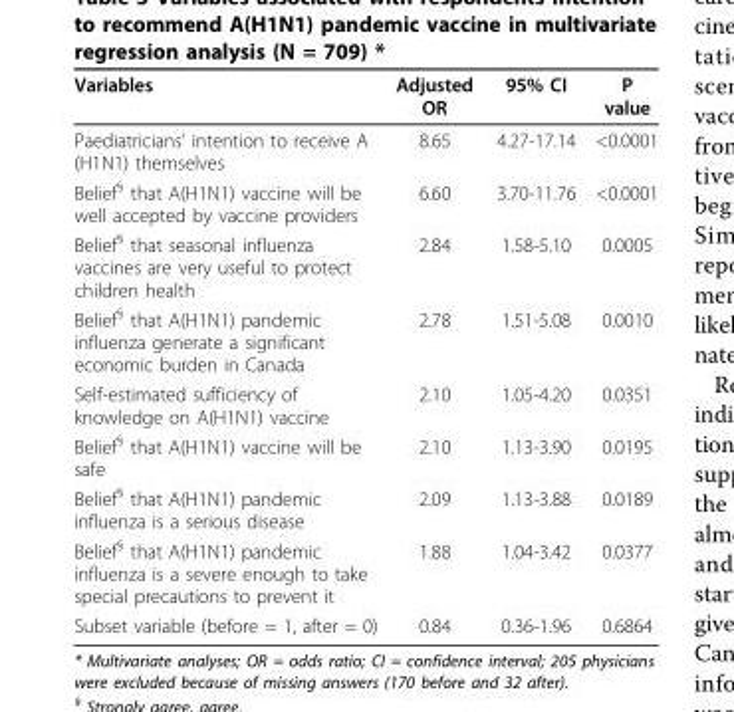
<table><thead><tr><td>Variables</td><td>Adjusted OR</td><td>95% CI</td><td>P value</td></tr></thead><tbody><tr><td>Paediatricians’ intention to receive A (H1N1) themselves</td><td>8.65</td><td>4.27-17.14</td><td>&lt;0.0001</td></tr><tr><td>Belief<sup>§</sup> that A(H1N1) vaccine will be well accepted by vaccine providers</td><td>6.60</td><td>3.70-11.76</td><td>&lt;0.0001</td></tr><tr><td>Belief<sup>§</sup> that seasonal influenza vaccines are very useful to protect children health</td><td>2.84</td><td>1.58-5.10</td><td>0.0005</td></tr><tr><td>Belief<sup>§</sup> that A(H1N1) pandemic influenza generate a significant economic burden in Canada</td><td>2.78</td><td>1.51-5.08</td><td>0.0010</td></tr><tr><td>Self-estimated sufficiency of knowledge on A(H1N1) vaccine</td><td>2.10</td><td>1.05-4.20</td><td>0.0351</td></tr><tr><td>Belief<sup>§</sup> that A(H1N1) vaccine will be safe</td><td>2.10</td><td>1.13-3.90</td><td>0.0195</td></tr><tr><td>Belief<sup>§</sup> that A(H1N1) pandemic influenza is a serious disease</td><td>2.09</td><td>1.13-3.88</td><td>0.0189</td></tr><tr><td>Belief<sup>§</sup> that A(H1N1) pandemic influenza is a severe enough to take special precautions to prevent it</td><td>1.88</td><td>1.04-3.42</td><td>0.0377</td></tr><tr><td>Subset variable (before = 1, after = 0)</td><td>0.84</td><td>0.36-1.96</td><td>0.6864</td></tr></tbody></table>